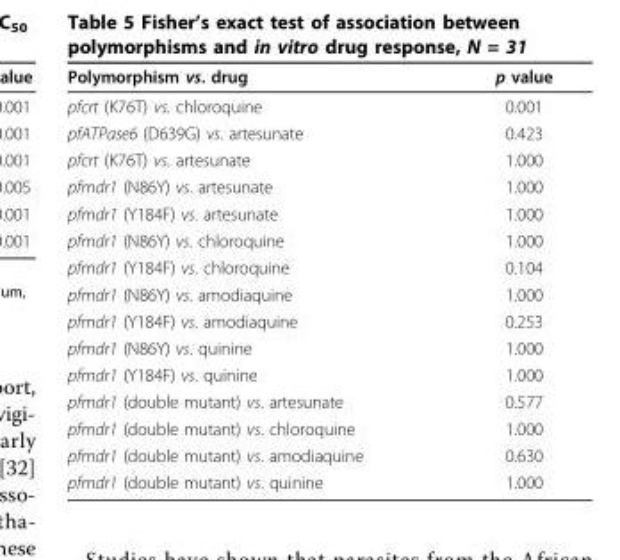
<table><thead><tr><td>Polymorphism vs. drug</td><td>p value</td></tr></thead><tbody><tr><td>pfcrt (K76T) vs. chloroquine</td><td>0.001</td></tr><tr><td>pfATPase6 (D639G) vs. artesunate</td><td>0.423</td></tr><tr><td>pfcrt (K76T) vs. artesunate</td><td>1.000</td></tr><tr><td>pfmdr1 (N86Y) vs. artesunate</td><td>1.000</td></tr><tr><td>pfmdr1 (Y184F) vs. artesunate</td><td>1.000</td></tr><tr><td>pfmdr1 (N86Y) vs. chloroquine</td><td>1.000</td></tr><tr><td>pfmdr1 (Y184F) vs. chloroquine</td><td>0.104</td></tr><tr><td>pfmdr1 (N86Y) vs. amodiaquine</td><td>1.000</td></tr><tr><td>pfmdr1 (Y184F) vs. amodiaquine</td><td>0.253</td></tr><tr><td>pfmdr1 (N86Y) vs. quinine</td><td>1.000</td></tr><tr><td>pfmdr1 (Y184F) vs. quinine</td><td>1.000</td></tr><tr><td>pfmdr1 (double mutant) vs. artesunate</td><td>0.577</td></tr><tr><td>pfmdr1 (double mutant) vs. chloroquine</td><td>1.000</td></tr><tr><td>pfmdr1 (double mutant) vs. amodiaquine</td><td>0.630</td></tr><tr><td>pfmdr1 (double mutant) vs. quinine</td><td>1.000</td></tr></tbody></table>